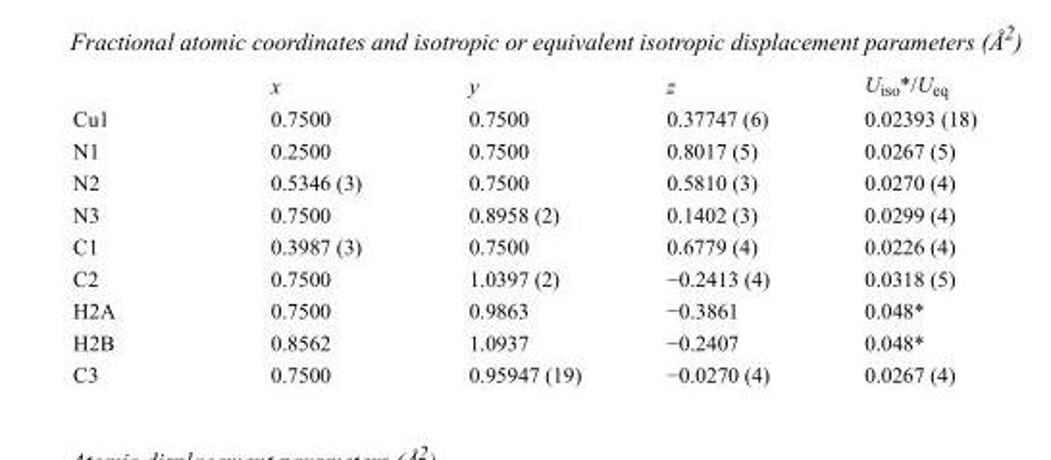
<table><thead><tr><td></td><td>x</td><td>y</td><td>z</td><td>U<sub>iso</sub>*/U<sub>eq</sub></td></tr></thead><tbody><tr><td>Cu1</td><td>0.7500</td><td>0.7500</td><td>0.37747 (6)</td><td>0.02393 (18)</td></tr><tr><td>N1</td><td>0.2500</td><td>0.7500</td><td>0.8017 (5)</td><td>0.0267 (5)</td></tr><tr><td>N2</td><td>0.5346 (3)</td><td>0.7500</td><td>0.5810 (3)</td><td>0.0270 (4)</td></tr><tr><td>N3</td><td>0.7500</td><td>0.8958 (2)</td><td>0.1402 (3)</td><td>0.0299 (4)</td></tr><tr><td>C1</td><td>0.3987 (3)</td><td>0.7500</td><td>0.6779 (4)</td><td>0.0226 (4)</td></tr><tr><td>C2</td><td>0.7500</td><td>1.0397 (2)</td><td>−0.2413 (4)</td><td>0.0318 (5)</td></tr><tr><td>H2A</td><td>0.7500</td><td>0.9863</td><td>−0.3861</td><td>0.048*</td></tr><tr><td>H2B</td><td>0.8562</td><td>1.0937</td><td>−0.2407</td><td>0.048*</td></tr><tr><td>C3</td><td>0.7500</td><td>0.95947 (19)</td><td>−0.0270 (4)</td><td>0.0267 (4)</td></tr></tbody></table>